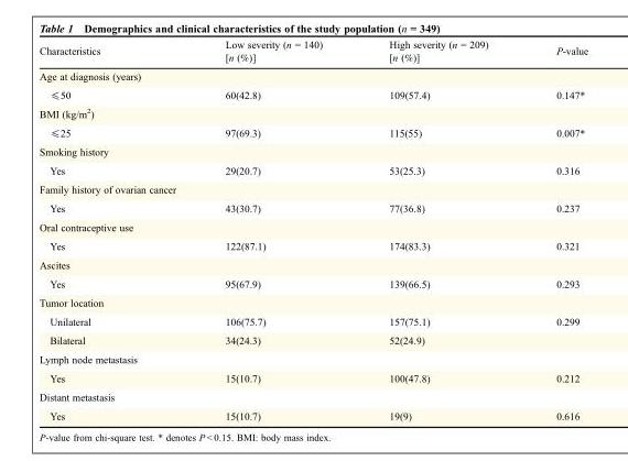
<table><thead><tr><td>Characteristics</td><td>Low severity (n = 140) [n (%)]</td><td>High severity (n = 209) [n (%)]</td><td>P-value</td></tr></thead><tbody><tr><td colspan="4">Age at diagnosis (years)</td></tr><tr><td>≤50</td><td>60(42.8)</td><td>109(57.4)</td><td>0.147*</td></tr><tr><td colspan="4">BMI (kg/m<sup>2</sup>)</td></tr><tr><td>≤25</td><td>97(69.3)</td><td>115(55)</td><td>0.007*</td></tr><tr><td colspan="4">Smoking history</td></tr><tr><td>Yes</td><td>29(20.7)</td><td>53(25.3)</td><td>0.316</td></tr><tr><td colspan="4">Family history of ovarian cancer</td></tr><tr><td>Yes</td><td>43(30.7)</td><td>77(36.8)</td><td>0.237</td></tr><tr><td colspan="4">Oral contraceptive use</td></tr><tr><td>Yes</td><td>122(87.1)</td><td>174(83.3)</td><td>0.321</td></tr><tr><td colspan="4">Ascites</td></tr><tr><td>Yes</td><td>95(67.9)</td><td>139(66.5)</td><td>0.293</td></tr><tr><td colspan="4">Tumor location</td></tr><tr><td>Unilateral</td><td>106(75.7)</td><td>157(75.1)</td><td>0.299</td></tr><tr><td>Bilateral</td><td>34(24.3)</td><td>52(24.9)</td><td></td></tr><tr><td colspan="4">Lymph node metastasis</td></tr><tr><td>Yes</td><td>15(10.7)</td><td>100(47.8)</td><td>0.212</td></tr><tr><td colspan="4">Distant metastasis</td></tr><tr><td>Yes</td><td>15(10.7)</td><td>19(9)</td><td>0.616</td></tr></tbody></table>